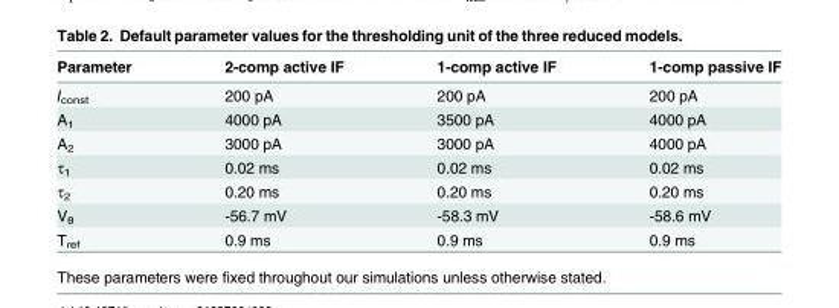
<table><thead><tr><td>Parameter</td><td>2-comp active IF</td><td>1-comp active IF</td><td>1-comp passive IF</td></tr></thead><tbody><tr><td>I<sub>const</sub></td><td>200 pA</td><td>200 pA</td><td>200 pA</td></tr><tr><td>A<sub>1</sub></td><td>4000 pA</td><td>3500 pA</td><td>4000 pA</td></tr><tr><td>A<sub>2</sub></td><td>3000 pA</td><td>3000 pA</td><td>4000 pA</td></tr><tr><td>τ<sub>1</sub></td><td>0.02 ms</td><td>0.02 ms</td><td>0.02 ms</td></tr><tr><td>τ<sub>2</sub></td><td>0.20 ms</td><td>0.20 ms</td><td>0.20 ms</td></tr><tr><td>V<sub>θ</sub></td><td>-56.7 mV</td><td>-58.3 mV</td><td>-58.6 mV</td></tr><tr><td>T<sub>ref</sub></td><td>0.9 ms</td><td>0.9 ms</td><td>0.9 ms</td></tr></tbody></table>